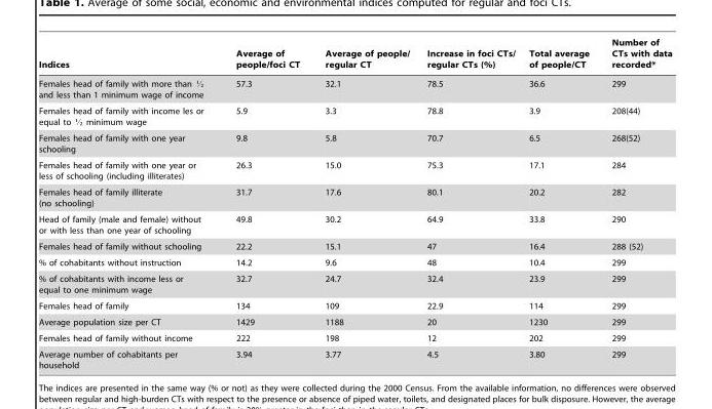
<table><thead><tr><td>Indices</td><td>Average of people/foci CT</td><td>Average of people/ regular CT</td><td>Increase in foci CTs/ regular CTs (%)</td><td>Total average of people/CT</td><td>Number of CTs with data recorded*</td></tr></thead><tbody><tr><td>Females head of family with more than K and less than 1 minimum wage of income</td><td>57.3</td><td>32.1</td><td>78.5</td><td>36.6</td><td>299</td></tr><tr><td>Females head of family with income les or equal to K minimum wage</td><td>5.9</td><td>3.3</td><td>78.8</td><td>3.9</td><td>208(44)</td></tr><tr><td>Females head of family with one year schooling</td><td>9.8</td><td>5.8</td><td>70.7</td><td>6.5</td><td>268(52)</td></tr><tr><td>Females head of family with one year or less of schooling (including illiterates)</td><td>26.3</td><td>15.0</td><td>75.3</td><td>17.1</td><td>284</td></tr><tr><td>Females head of family illiterate (no schooling)</td><td>31.7</td><td>17.6</td><td>80.1</td><td>20.2</td><td>282</td></tr><tr><td>Head of family (male and female) without or with less than one year of schooling</td><td>49.8</td><td>30.2</td><td>64.9</td><td>33.8</td><td>290</td></tr><tr><td>Females head of family without schooling</td><td>22.2</td><td>15.1</td><td>47</td><td>16.4</td><td>288 (52)</td></tr><tr><td>% of cohabitants without instruction</td><td>14.2</td><td>9.6</td><td>48</td><td>10.4</td><td>299</td></tr><tr><td>% of cohabitants with income less or equal to one minimum wage</td><td>32.7</td><td>24.7</td><td>32.4</td><td>23.9</td><td>299</td></tr><tr><td>Females head of family</td><td>134</td><td>109</td><td>22.9</td><td>114</td><td>299</td></tr><tr><td>Average population size per CT</td><td>1429</td><td>1188</td><td>20</td><td>1230</td><td>299</td></tr><tr><td>Females head of family without income</td><td>222</td><td>198</td><td>12</td><td>202</td><td>299</td></tr><tr><td>Average number of cohabitants per household</td><td>3.94</td><td>3.77</td><td>4.5</td><td>3.80</td><td>299</td></tr></tbody></table>